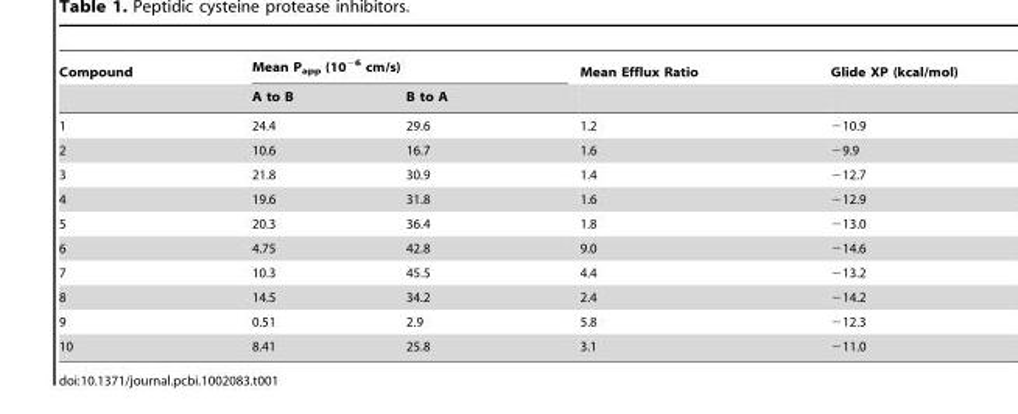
<table><thead><tr><td rowspan="2">Compound</td><td colspan="2">Mean P<sub>app</sub> (10<sup>−6</sup> cm/s)</td><td rowspan="2">Mean Efflux Ratio</td><td rowspan="2">Glide XP (kcal/mol)</td></tr><tr><td>A to B</td><td>B to A</td></tr></thead><tbody><tr><td>1</td><td>24.4</td><td>29.6</td><td>1.2</td><td>−10.9</td></tr><tr><td>2</td><td>10.6</td><td>16.7</td><td>1.6</td><td>−9.9</td></tr><tr><td>3</td><td>21.8</td><td>30.9</td><td>1.4</td><td>−12.7</td></tr><tr><td>4</td><td>19.6</td><td>31.8</td><td>1.6</td><td>−12.9</td></tr><tr><td>5</td><td>20.3</td><td>36.4</td><td>1.8</td><td>−13.0</td></tr><tr><td>6</td><td>4.75</td><td>42.8</td><td>9.0</td><td>−14.6</td></tr><tr><td>7</td><td>10.3</td><td>45.5</td><td>4.4</td><td>−13.2</td></tr><tr><td>8</td><td>14.5</td><td>34.2</td><td>2.4</td><td>−14.2</td></tr><tr><td>9</td><td>0.51</td><td>2.9</td><td>5.8</td><td>−12.3</td></tr><tr><td>10</td><td>8.41</td><td>25.8</td><td>3.1</td><td>−11.0</td></tr></tbody></table>